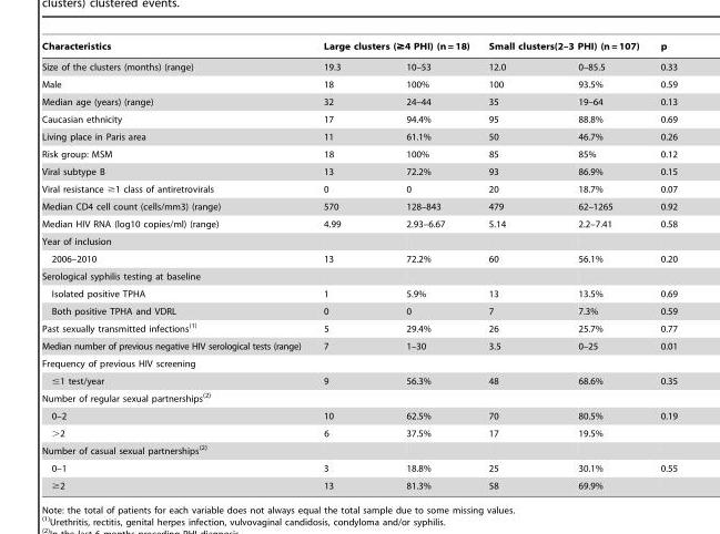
<table><thead><tr><td rowspan="2">Characteristics Size of the clusters (months) (range)</td><td colspan="2">Large clusters (≥4 PHI) (n = 18)</td><td colspan="2">Small clusters(2–3 PHI) (n = 107)</td><td rowspan="2">p 0.33</td></tr><tr><td>19.3</td><td>10–53</td><td>12.0</td><td>0–85.5</td></tr></thead><tbody><tr><td>Male</td><td>18</td><td>100%</td><td>100</td><td>93.5%</td><td>0.59</td></tr><tr><td>Median age (years) (range)</td><td>32</td><td>24–44</td><td>35</td><td>19–64</td><td>0.13</td></tr><tr><td>Caucasian ethnicity</td><td>17</td><td>94.4%</td><td>95</td><td>88.8%</td><td>0.69</td></tr><tr><td>Living place in Paris area</td><td>11</td><td>61.1%</td><td>50</td><td>46.7%</td><td>0.26</td></tr><tr><td>Risk group: MSM</td><td>18</td><td>100%</td><td>85</td><td>85%</td><td>0.12</td></tr><tr><td>Viral subtype B</td><td>13</td><td>72.2%</td><td>93</td><td>86.9%</td><td>0.15</td></tr><tr><td>Viral resistance ≥1 class of antiretrovirals</td><td>0</td><td>0</td><td>20</td><td>18.7%</td><td>0.07</td></tr><tr><td>Median CD4 cell count (cells/mm3) (range)</td><td>570</td><td>128–843</td><td>479</td><td>62–1265</td><td>0.92</td></tr><tr><td>Median HIV RNA (log10 copies/ml) (range)</td><td>4.99</td><td>2.93–6.67</td><td>5.14</td><td>2.2–7.41</td><td>0.58</td></tr><tr><td colspan="6">Year of inclusion</td></tr><tr><td>2006–2010</td><td>13</td><td>72.2%</td><td>60</td><td>56.1%</td><td>0.20</td></tr><tr><td colspan="6">Serological syphilis testing at baseline</td></tr><tr><td>Isolated positive TPHA</td><td>1</td><td>5.9%</td><td>13</td><td>13.5%</td><td>0.69</td></tr><tr><td>Both positive TPHA and VDRL</td><td>0</td><td>0</td><td>7</td><td>7.3%</td><td>0.59</td></tr><tr><td>Past sexually transmitted infections(1)</td><td>5</td><td>29.4%</td><td>26</td><td>25.7%</td><td>0.77</td></tr><tr><td>Median number of previous negative HIV serological tests (range)</td><td>7</td><td>1–30</td><td>3.5</td><td>0–25</td><td>0.01</td></tr><tr><td colspan="6">Frequency of previous HIV screening</td></tr><tr><td>≤1 test/year</td><td>9</td><td>56.3%</td><td>48</td><td>68.6%</td><td>0.35</td></tr><tr><td colspan="6">Number of regular sexual partnerships(2)</td></tr><tr><td>0–2</td><td>10</td><td>62.5%</td><td>70</td><td>80.5%</td><td>0.19</td></tr><tr><td>&gt;2</td><td>6</td><td>37.5%</td><td>17</td><td>19.5%</td><td></td></tr><tr><td colspan="6">Number of casual sexual partnerships(2)</td></tr><tr><td>0–1</td><td>3</td><td>18.8%</td><td>25</td><td>30.1%</td><td>0.55</td></tr><tr><td>≥2</td><td>13</td><td>81.3%</td><td>58</td><td>69.9%</td><td></td></tr></tbody></table>